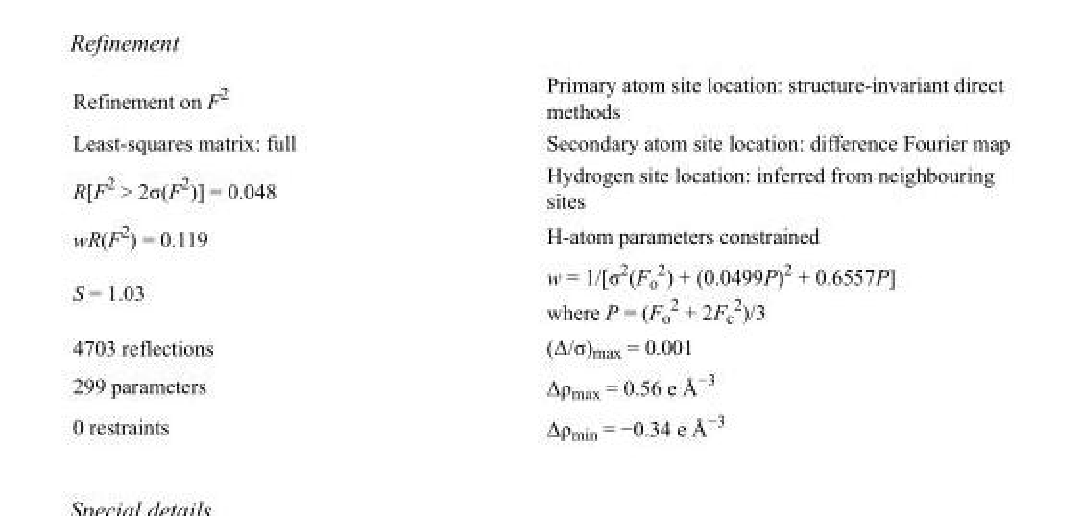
<table><tbody><tr><td>Refinement on F<sup>2</sup></td><td>Primary atom site location: structure-invariant direct methods</td></tr><tr><td>Least-squares matrix: full</td><td>Secondary atom site location: difference Fourier map</td></tr><tr><td>R[F<sup>2</sup> &gt; 2σ(F<sup>2</sup>)] = 0.048</td><td>Hydrogen site location: inferred from neighbouring sites</td></tr><tr><td>wR(F<sup>2</sup>) = 0.119</td><td>H-atom parameters constrained</td></tr><tr><td>S = 1.03</td><td>w = 1/[σ<sup>2</sup>(F<sub>o</sub> <sup>2</sup>) + (0.0499P)<sup>2</sup> + 0.6557P] where P = (F<sub>o</sub> <sup>2</sup> + 2F<sub>c</sub> <sup>2</sup>)/3</td></tr><tr><td>4703 reflections</td><td>(Δ/σ)<sub>max</sub> = 0.001</td></tr><tr><td>299 parameters</td><td>Δρ<sub>max</sub> = 0.56 e Å<sup>−3</sup></td></tr><tr><td>0 restraints</td><td>Δρ<sub>min</sub> = −0.34 e Å<sup>−3</sup></td></tr></tbody></table>